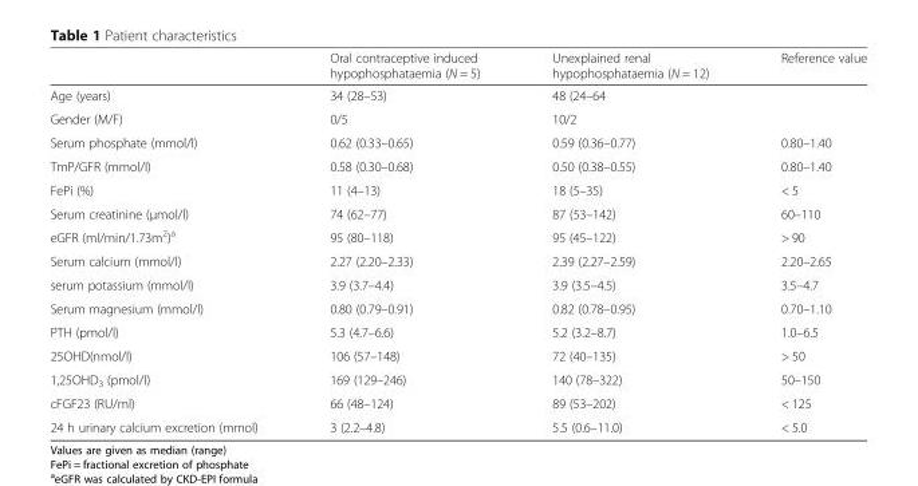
<table><thead><tr><td></td><td>Oral contraceptive induced hypophosphataemia (N = 5)</td><td>Unexplained renal hypophosphataemia (N = 12)</td><td>Reference value</td></tr></thead><tbody><tr><td>Age (years)</td><td>34 (28–53)</td><td>48 (24–64</td><td></td></tr><tr><td>Gender (M/F)</td><td>0/5</td><td>10/2</td><td></td></tr><tr><td>Serum phosphate (mmol/l)</td><td>0.62 (0.33–0.65)</td><td>0.59 (0.36–0.77)</td><td>0.80–1.40</td></tr><tr><td>TmP/GFR (mmol/l)</td><td>0.58 (0.30–0.68)</td><td>0.50 (0.38–0.55)</td><td>0.80–1.40</td></tr><tr><td>FePi (%)</td><td>11 (4–13)</td><td>18 (5–35)</td><td>&lt; 5</td></tr><tr><td>Serum creatinine (μmol/l)</td><td>74 (62–77)</td><td>87 (53–142)</td><td>60–110</td></tr><tr><td>eGFR (ml/min/1.73m<sup>2</sup>)<sup>a</sup></td><td>95 (80–118)</td><td>95 (45–122)</td><td>&gt; 90</td></tr><tr><td>Serum calcium (mmol/l)</td><td>2.27 (2.20–2.33)</td><td>2.39 (2.27–2.59)</td><td>2.20–2.65</td></tr><tr><td>serum potassium (mmol/l)</td><td>3.9 (3.7–4.4)</td><td>3.9 (3.5–4.5)</td><td>3.5–4.7</td></tr><tr><td>Serum magnesium (mmol/l)</td><td>0.80 (0.79–0.91)</td><td>0.82 (0.78–0.95)</td><td>0.70–1.10</td></tr><tr><td>PTH (pmol/l)</td><td>5.3 (4.7–6.6)</td><td>5.2 (3.2–8.7)</td><td>1.0–6.5</td></tr><tr><td>25OHD(nmol/l)</td><td>106 (57–148)</td><td>72 (40–135)</td><td>&gt; 50</td></tr><tr><td>1,25OHD<sub>3</sub> (pmol/l)</td><td>169 (129–246)</td><td>140 (78–322)</td><td>50–150</td></tr><tr><td>cFGF23 (RU/ml)</td><td>66 (48–124)</td><td>89 (53–202)</td><td>&lt; 125</td></tr><tr><td>24 h urinary calcium excretion (mmol)</td><td>3 (2.2–4.8)</td><td>5.5 (0.6–11.0)</td><td>&lt; 5.0</td></tr></tbody></table>